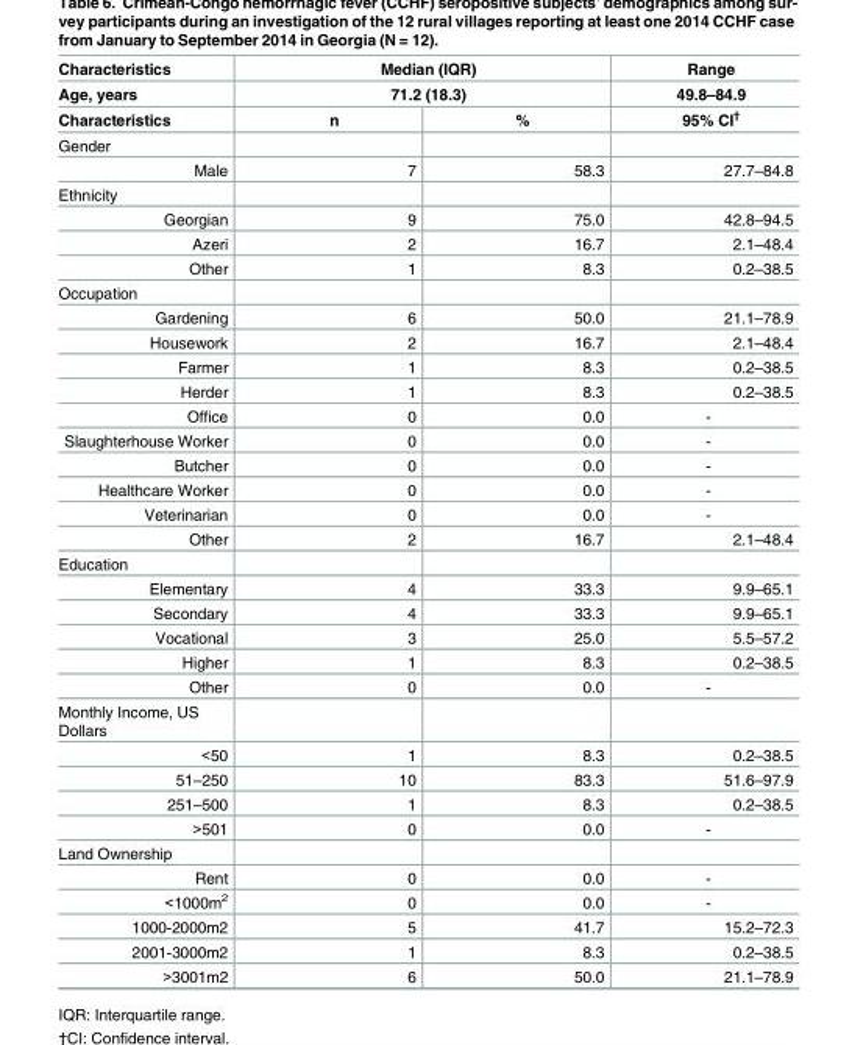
<table><thead><tr><td rowspan="3">Characteristics Age, years Characteristics</td><td rowspan="2" colspan="2">Median (IQR) 71.2 (18.3)</td><td rowspan="3">Range 49.8–84.9 95% CI<sup>†</sup></td></tr><tr></tr><tr><td>n</td><td>%</td></tr></thead><tbody><tr><td colspan="4">Gender</td></tr><tr><td>Male</td><td>7</td><td>58.3</td><td>27.7–84.8</td></tr><tr><td colspan="4">Ethnicity</td></tr><tr><td>Georgian</td><td>9</td><td>75.0</td><td>42.8–94.5</td></tr><tr><td>Azeri</td><td>2</td><td>16.7</td><td>2.1–48.4</td></tr><tr><td>Other</td><td>1</td><td>8.3</td><td>0.2–38.5</td></tr><tr><td colspan="4">Occupation</td></tr><tr><td>Gardening</td><td>6</td><td>50.0</td><td>21.1–78.9</td></tr><tr><td>Housework</td><td>2</td><td>16.7</td><td>2.1–48.4</td></tr><tr><td>Farmer</td><td>1</td><td>8.3</td><td>0.2–38.5</td></tr><tr><td>Herder</td><td>1</td><td>8.3</td><td>0.2–38.5</td></tr><tr><td>Office</td><td>0</td><td>0.0</td><td>-</td></tr><tr><td>Slaughterhouse Worker</td><td>0</td><td>0.0</td><td>-</td></tr><tr><td>Butcher</td><td>0</td><td>0.0</td><td>-</td></tr><tr><td>Healthcare Worker</td><td>0</td><td>0.0</td><td>-</td></tr><tr><td>Veterinarian</td><td>0</td><td>0.0</td><td>-</td></tr><tr><td>Other</td><td>2</td><td>16.7</td><td>2.1–48.4</td></tr><tr><td colspan="4">Education</td></tr><tr><td>Elementary</td><td>4</td><td>33.3</td><td>9.9–65.1</td></tr><tr><td>Secondary</td><td>4</td><td>33.3</td><td>9.9–65.1</td></tr><tr><td>Vocational</td><td>3</td><td>25.0</td><td>5.5–57.2</td></tr><tr><td>Higher</td><td>1</td><td>8.3</td><td>0.2–38.5</td></tr><tr><td>Other</td><td>0</td><td>0.0</td><td>-</td></tr><tr><td colspan="4">Monthly Income, US Dollars</td></tr><tr><td>&lt;50</td><td>1</td><td>8.3</td><td>0.2–38.5</td></tr><tr><td>51–250</td><td>10</td><td>83.3</td><td>51.6–97.9</td></tr><tr><td>251–500</td><td>1</td><td>8.3</td><td>0.2–38.5</td></tr><tr><td>&gt;501</td><td>0</td><td>0.0</td><td>-</td></tr><tr><td colspan="4">Land Ownership</td></tr><tr><td>Rent</td><td>0</td><td>0.0</td><td>-</td></tr><tr><td>&lt;1000m<sup>2</sup></td><td>0</td><td>0.0</td><td>-</td></tr><tr><td>1000-2000m2</td><td>5</td><td>41.7</td><td>15.2–72.3</td></tr><tr><td>2001-3000m2</td><td>1</td><td>8.3</td><td>0.2–38.5</td></tr><tr><td>&gt;3001m2</td><td>6</td><td>50.0</td><td>21.1–78.9</td></tr></tbody></table>